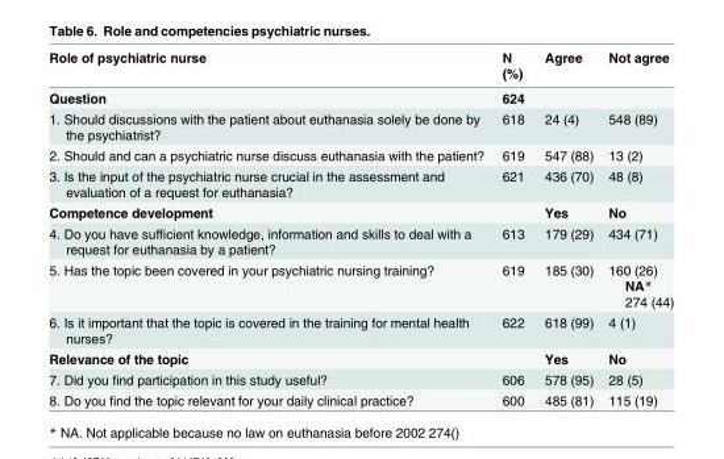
<table><thead><tr><td>Role of psychiatric nurse</td><td>N (%)</td><td>Agree</td><td>Not agree</td></tr></thead><tbody><tr><td>Question</td><td>624</td><td></td><td></td></tr><tr><td>1. Should discussions with the patient about euthanasia solely be done by the psychiatrist?</td><td>618</td><td>24 (4)</td><td>548 (89)</td></tr><tr><td>2. Should and can a psychiatric nurse discuss euthanasia with the patient?</td><td>619</td><td>547 (88)</td><td>13 (2)</td></tr><tr><td>3. Is the input of the psychiatric nurse crucial in the assessment and evaluation of a request for euthanasia?</td><td>621</td><td>436 (70)</td><td>48 (8)</td></tr><tr><td>Competence development</td><td></td><td>Yes</td><td>No</td></tr><tr><td>4. Do you have sufficient knowledge, information and skills to deal with a request for euthanasia by a patient?</td><td>613</td><td>179 (29)</td><td>434 (71)</td></tr><tr><td>5. Has the topic been covered in your psychiatric nursing training?</td><td>619</td><td>185 (30)</td><td>160 (26) NA* 274 (44)</td></tr><tr><td>6. Is it important that the topic is covered in the training for mental health nurses?</td><td>622</td><td>618 (99)</td><td>4 (1)</td></tr><tr><td>Relevance of the topic</td><td></td><td>Yes</td><td>No</td></tr><tr><td>7. Did you find participation in this study useful?</td><td>606</td><td>578 (95)</td><td>28 (5)</td></tr><tr><td>8. Do you find the topic relevant for your daily clinical practice?</td><td>600</td><td>485 (81)</td><td>115 (19)</td></tr></tbody></table>